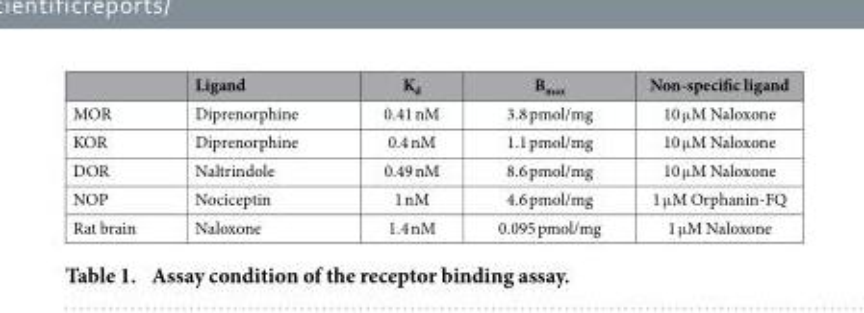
<table><thead><tr><td></td><td>Ligand</td><td>K<sub>d</sub></td><td>B<sub>max</sub></td><td>Non-specific ligand</td></tr></thead><tbody><tr><td>MOR</td><td>Diprenorphine</td><td>0.41 nM</td><td>3.8 pmol/mg</td><td>10 μ M Naloxone</td></tr><tr><td>KOR</td><td>Diprenorphine</td><td>0.4 nM</td><td>1.1 pmol/mg</td><td>10 μ M Naloxone</td></tr><tr><td>DOR</td><td>Naltrindole</td><td>0.49 nM</td><td>8.6 pmol/mg</td><td>10 μ M Naloxone</td></tr><tr><td>NOP</td><td>Nociceptin</td><td>1 nM</td><td>4.6 pmol/mg</td><td>1 μ M Orphanin-FQ</td></tr><tr><td>Rat brain</td><td>Naloxone</td><td>1.4 nM</td><td>0.095 pmol/mg</td><td>1 μ M Naloxone</td></tr></tbody></table>